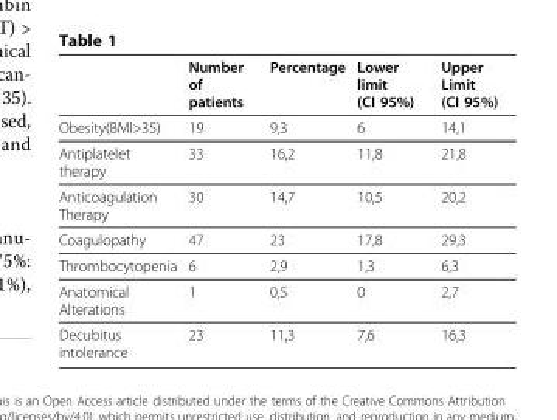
<table><thead><tr><td></td><td>Number of patients</td><td>Percentage</td><td>Lower limit (CI 95%)</td><td>Upper Limit (CI 95%)</td></tr></thead><tbody><tr><td>Obesity(BMI&gt;35)</td><td>19</td><td>9,3</td><td>6</td><td>14,1</td></tr><tr><td>Antiplatelet therapy</td><td>33</td><td>16,2</td><td>11,8</td><td>21,8</td></tr><tr><td>Anticoagulation Therapy</td><td>30</td><td>14,7</td><td>10,5</td><td>20,2</td></tr><tr><td>Coagulopathy</td><td>47</td><td>23</td><td>17,8</td><td>29,3</td></tr><tr><td>Thrombocytopenia</td><td>6</td><td>2,9</td><td>1,3</td><td>6,3</td></tr><tr><td>Anatomical Alterations</td><td>1</td><td>0,5</td><td>0</td><td>2,7</td></tr><tr><td>Decubitus intolerance</td><td>23</td><td>11,3</td><td>7,6</td><td>16,3</td></tr></tbody></table>